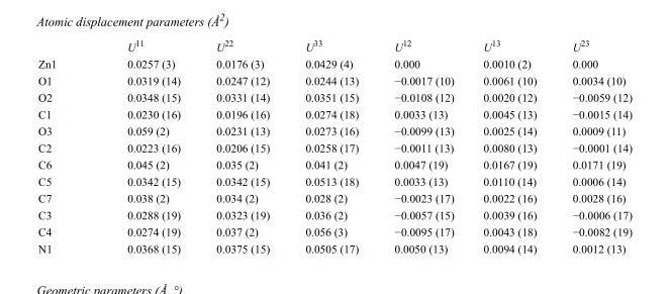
<table><thead><tr><td></td><td>U<sup>11</sup></td><td>U<sup>22</sup></td><td>U<sup>33</sup></td><td>U<sup>12</sup></td><td>U<sup>13</sup></td><td>U<sup>23</sup></td></tr></thead><tbody><tr><td>Zn1</td><td>0.0257 (3)</td><td>0.0176 (3)</td><td>0.0429 (4)</td><td>0.000</td><td>0.0010 (2)</td><td>0.000</td></tr><tr><td>O1</td><td>0.0319 (14)</td><td>0.0247 (12)</td><td>0.0244 (13)</td><td>−0.0017 (10)</td><td>0.0061 (10)</td><td>0.0034 (10)</td></tr><tr><td>O2</td><td>0.0348 (15)</td><td>0.0331 (14)</td><td>0.0351 (15)</td><td>−0.0108 (12)</td><td>0.0020 (12)</td><td>−0.0059 (12)</td></tr><tr><td>C1</td><td>0.0230 (16)</td><td>0.0196 (16)</td><td>0.0274 (18)</td><td>0.0033 (13)</td><td>0.0045 (13)</td><td>−0.0015 (14)</td></tr><tr><td>O3</td><td>0.059 (2)</td><td>0.0231 (13)</td><td>0.0273 (16)</td><td>−0.0099 (13)</td><td>0.0025 (14)</td><td>0.0009 (11)</td></tr><tr><td>C2</td><td>0.0223 (16)</td><td>0.0206 (15)</td><td>0.0258 (17)</td><td>−0.0011 (13)</td><td>0.0080 (13)</td><td>−0.0001 (14)</td></tr><tr><td>C6</td><td>0.045 (2)</td><td>0.035 (2)</td><td>0.041 (2)</td><td>0.0047 (19)</td><td>0.0167 (19)</td><td>0.0171 (19)</td></tr><tr><td>C5</td><td>0.0342 (15)</td><td>0.0342 (15)</td><td>0.0513 (18)</td><td>0.0033 (13)</td><td>0.0110 (14)</td><td>0.0006 (14)</td></tr><tr><td>C7</td><td>0.038 (2)</td><td>0.034 (2)</td><td>0.028 (2)</td><td>−0.0023 (17)</td><td>0.0022 (16)</td><td>0.0028 (16)</td></tr><tr><td>C3</td><td>0.0288 (19)</td><td>0.0323 (19)</td><td>0.036 (2)</td><td>−0.0057 (15)</td><td>0.0039 (16)</td><td>−0.0006 (17)</td></tr><tr><td>C4</td><td>0.0274 (19)</td><td>0.037 (2)</td><td>0.056 (3)</td><td>−0.0095 (17)</td><td>0.0043 (18)</td><td>−0.0082 (19)</td></tr><tr><td>N1</td><td>0.0368 (15)</td><td>0.0375 (15)</td><td>0.0505 (17)</td><td>0.0050 (13)</td><td>0.0094 (14)</td><td>0.0012 (13)</td></tr></tbody></table>